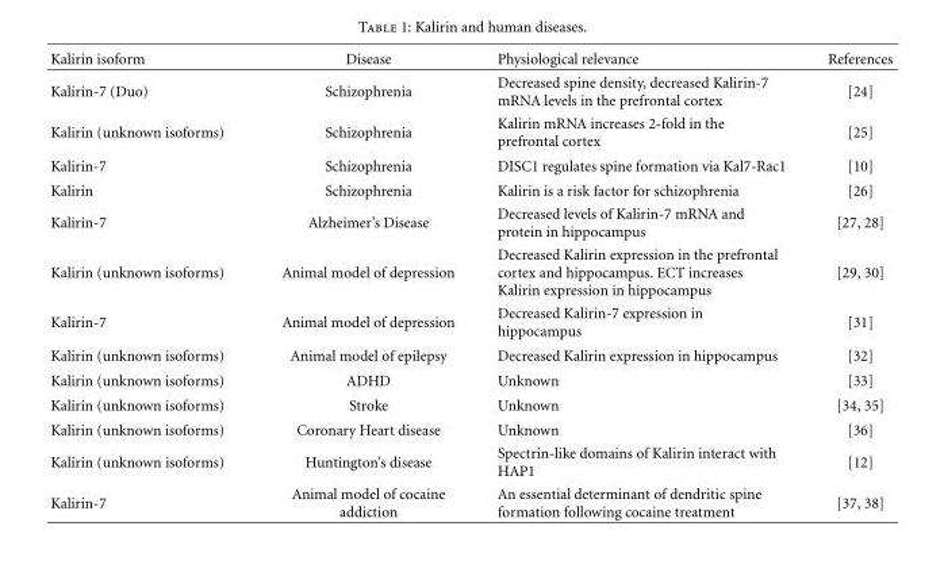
<table><thead><tr><td>Kalirin isoform</td><td>Disease</td><td>Physiological relevance</td><td>References</td></tr></thead><tbody><tr><td>Kalirin-7 (Duo)</td><td>Schizophrenia</td><td>Decreased spine density, decreased Kalirin-7 mRNA levels in the prefrontal cortex</td><td>[24]</td></tr><tr><td>Kalirin (unknown isoforms)</td><td>Schizophrenia</td><td>Kalirin mRNA increases 2-fold in the prefrontal cortex</td><td>[25]</td></tr><tr><td>Kalirin-7</td><td>Schizophrenia</td><td>DISC1 regulates spine formation via Kal7-Rac1</td><td>[10]</td></tr><tr><td>Kalirin</td><td>Schizophrenia</td><td>Kalirin is a risk factor for schizophrenia</td><td>[26]</td></tr><tr><td>Kalirin-7</td><td>Alzheimer’s Disease</td><td>Decreased levels of Kalirin-7 mRNA and protein in hippocampus</td><td>[27, 28]</td></tr><tr><td>Kalirin (unknown isoforms)</td><td>Animal model of depression</td><td>Decreased Kalirin expression in the prefrontal cortex and hippocampus. ECT increases Kalirin expression in hippocampus</td><td>[29, 30]</td></tr><tr><td>Kalirin-7</td><td>Animal model of depression</td><td>Decreased Kalirin-7 expression in hippocampus</td><td>[31]</td></tr><tr><td>Kalirin (unknown isoforms)</td><td>Animal model of epilepsy</td><td>Decreased Kalirin expression in hippocampus</td><td>[32]</td></tr><tr><td>Kalirin (unknown isoforms)</td><td>ADHD</td><td>Unknown</td><td>[33]</td></tr><tr><td>Kalirin (unknown isoforms)</td><td>Stroke</td><td>Unknown</td><td>[34, 35]</td></tr><tr><td>Kalirin (unknown isoforms)</td><td>Coronary Heart disease</td><td>Unknown</td><td>[36]</td></tr><tr><td>Kalirin (unknown isoforms)</td><td>Huntington’s disease</td><td>Spectrin-like domains of Kalirin interact with HAP1</td><td>[12]</td></tr><tr><td>Kalirin-7</td><td>Animal model of cocaine addiction</td><td>An essential determinant of dendritic spine formation following cocaine treatment</td><td>[37, 38]</td></tr></tbody></table>